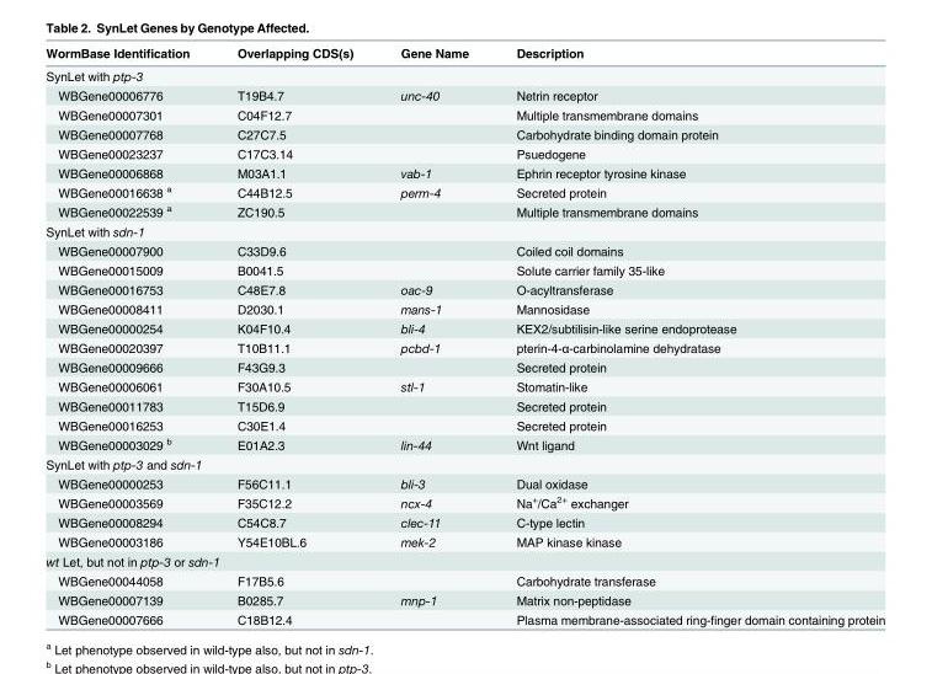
<table><thead><tr><td>WormBase Identification</td><td>Overlapping CDS(s)</td><td>Gene Name</td><td>Description</td></tr></thead><tbody><tr><td colspan="4">SynLet with ptp-3</td></tr><tr><td>WBGene00006776</td><td>T19B4.7</td><td>unc-40</td><td>Netrin receptor</td></tr><tr><td>WBGene00007301</td><td>C04F12.7</td><td></td><td>Multiple transmembrane domains</td></tr><tr><td>WBGene00007768</td><td>C27C7.5</td><td></td><td>Carbohydrate binding domain protein</td></tr><tr><td>WBGene00023237</td><td>C17C3.14</td><td></td><td>Psuedogene</td></tr><tr><td>WBGene00006868</td><td>M03A1.1</td><td>vab-1</td><td>Ephrin receptor tyrosine kinase</td></tr><tr><td>WBGene00016638 <sup>a</sup></td><td>C44B12.5</td><td>perm-4</td><td>Secreted protein</td></tr><tr><td>WBGene00022539 <sup>a</sup></td><td>ZC190.5</td><td></td><td>Multiple transmembrane domains</td></tr><tr><td colspan="4">SynLet with sdn-1</td></tr><tr><td>WBGene00007900</td><td>C33D9.6</td><td></td><td>Coiled coil domains</td></tr><tr><td>WBGene00015009</td><td>B0041.5</td><td></td><td>Solute carrier family 35-like</td></tr><tr><td>WBGene00016753</td><td>C48E7.8</td><td>oac-9</td><td>O-acyltransferase</td></tr><tr><td>WBGene00008411</td><td>D2030.1</td><td>mans-1</td><td>Mannosidase</td></tr><tr><td>WBGene00000254</td><td>K04F10.4</td><td>bli-4</td><td>KEX2/subtilisin-like serine endoprotease</td></tr><tr><td>WBGene00020397</td><td>T10B11.1</td><td>pcbd-1</td><td>pterin-4-α-carbinolamine dehydratase</td></tr><tr><td>WBGene00009666</td><td>F43G9.3</td><td></td><td>Secreted protein</td></tr><tr><td>WBGene00006061</td><td>F30A10.5</td><td>stl-1</td><td>Stomatin-like</td></tr><tr><td>WBGene00011783</td><td>T15D6.9</td><td></td><td>Secreted protein</td></tr><tr><td>WBGene00016253</td><td>C30E1.4</td><td></td><td>Secreted protein</td></tr><tr><td>WBGene00003029 <sup>b</sup></td><td>E01A2.3</td><td>lin-44</td><td>Wnt ligand</td></tr><tr><td colspan="4">SynLet with ptp-3 and sdn-1</td></tr><tr><td>WBGene00000253</td><td>F56C11.1</td><td>bli-3</td><td>Dual oxidase</td></tr><tr><td>WBGene00003569</td><td>F35C12.2</td><td>ncx-4</td><td>Na<sup>+</sup>/Ca<sup>2+</sup> exchanger</td></tr><tr><td>WBGene00008294</td><td>C54C8.7</td><td>clec-11</td><td>C-type lectin</td></tr><tr><td>WBGene00003186</td><td>Y54E10BL.6</td><td>mek-2</td><td>MAP kinase kinase</td></tr><tr><td colspan="4">wt Let, but not in ptp-3 or sdn-1</td></tr><tr><td>WBGene00044058</td><td>F17B5.6</td><td></td><td>Carbohydrate transferase</td></tr><tr><td>WBGene00007139</td><td>B0285.7</td><td>mnp-1</td><td>Matrix non-peptidase</td></tr><tr><td>WBGene00007666</td><td>C18B12.4</td><td></td><td>Plasma membrane-associated ring-finger domain containing protein</td></tr></tbody></table>